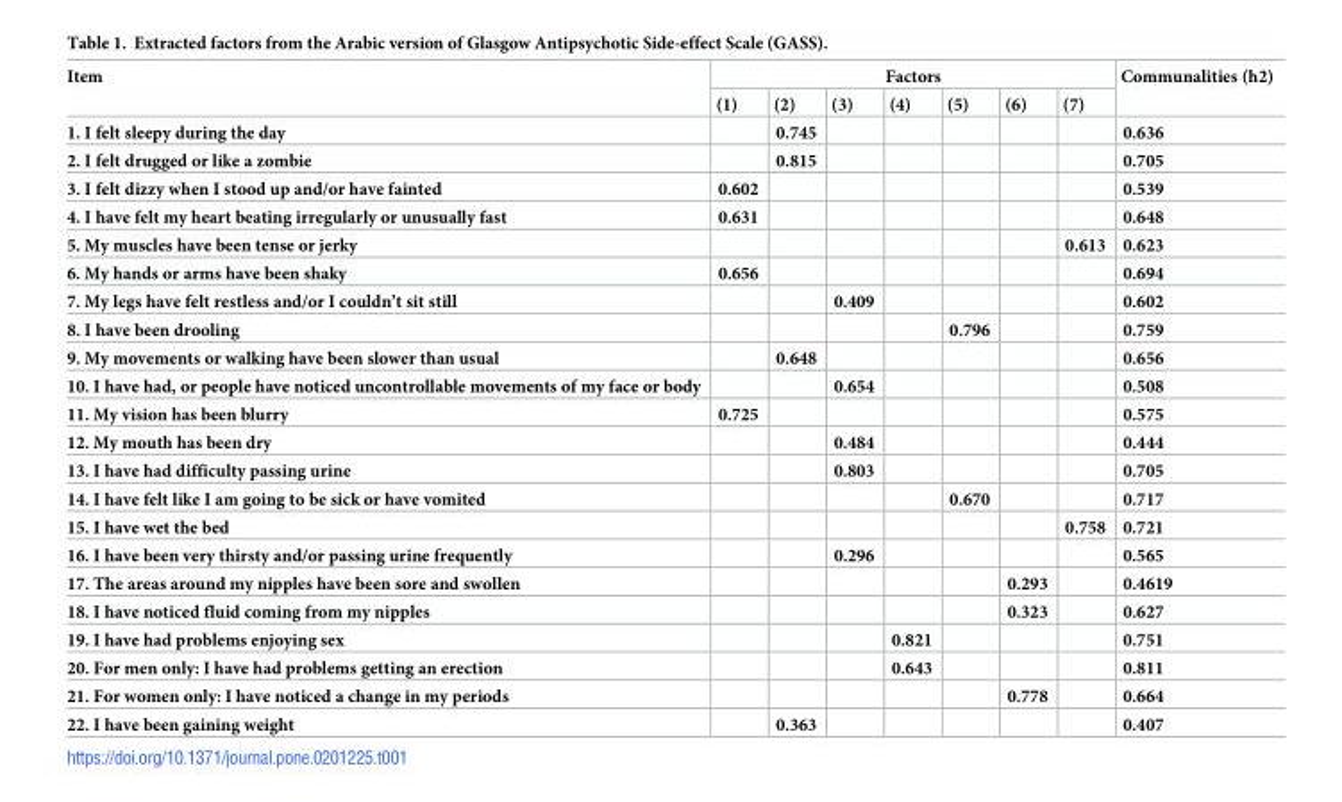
<table><thead><tr><td rowspan="2">Item</td><td colspan="7">Factors</td><td rowspan="2">Communalities (h2)</td></tr><tr><td>(1)</td><td>(2)</td><td>(3)</td><td>(4)</td><td>(5)</td><td>(6)</td><td>(7)</td></tr></thead><tbody><tr><td>1. I felt sleepy during the day</td><td></td><td>0.745</td><td></td><td></td><td></td><td></td><td></td><td>0.636</td></tr><tr><td>2. I felt drugged or like a zombie</td><td></td><td>0.815</td><td></td><td></td><td></td><td></td><td></td><td>0.705</td></tr><tr><td>3. I felt dizzy when I stood up and/or have fainted</td><td>0.602</td><td></td><td></td><td></td><td></td><td></td><td></td><td>0.539</td></tr><tr><td>4. I have felt my heart beating irregularly or unusually fast</td><td>0.631</td><td></td><td></td><td></td><td></td><td></td><td></td><td>0.648</td></tr><tr><td>5. My muscles have been tense or jerky</td><td></td><td></td><td></td><td></td><td></td><td></td><td>0.613</td><td>0.623</td></tr><tr><td>6. My hands or arms have been shaky</td><td>0.656</td><td></td><td></td><td></td><td></td><td></td><td></td><td>0.694</td></tr><tr><td>7. My legs have felt restless and/or I couldn’t sit still</td><td></td><td></td><td>0.409</td><td></td><td></td><td></td><td></td><td>0.602</td></tr><tr><td>8. I have been drooling</td><td></td><td></td><td></td><td></td><td>0.796</td><td></td><td></td><td>0.759</td></tr><tr><td>9. My movements or walking have been slower than usual</td><td></td><td>0.648</td><td></td><td></td><td></td><td></td><td></td><td>0.656</td></tr><tr><td>10. I have had, or people have noticed uncontrollable movements of my face or body</td><td></td><td></td><td>0.654</td><td></td><td></td><td></td><td></td><td>0.508</td></tr><tr><td>11. My vision has been blurry</td><td>0.725</td><td></td><td></td><td></td><td></td><td></td><td></td><td>0.575</td></tr><tr><td>12. My mouth has been dry</td><td></td><td></td><td>0.484</td><td></td><td></td><td></td><td></td><td>0.444</td></tr><tr><td>13. I have had difficulty passing urine</td><td></td><td></td><td>0.803</td><td></td><td></td><td></td><td></td><td>0.705</td></tr><tr><td>14. I have felt like I am going to be sick or have vomited</td><td></td><td></td><td></td><td></td><td>0.670</td><td></td><td></td><td>0.717</td></tr><tr><td>15. I have wet the bed</td><td></td><td></td><td></td><td></td><td></td><td></td><td>0.758</td><td>0.721</td></tr><tr><td>16. I have been very thirsty and/or passing urine frequently</td><td></td><td></td><td>0.296</td><td></td><td></td><td></td><td></td><td>0.565</td></tr><tr><td>17. The areas around my nipples have been sore and swollen</td><td></td><td></td><td></td><td></td><td></td><td>0.293</td><td></td><td>0.4619</td></tr><tr><td>18. I have noticed fluid coming from my nipples</td><td></td><td></td><td></td><td></td><td></td><td>0.323</td><td></td><td>0.627</td></tr><tr><td>19. I have had problems enjoying sex</td><td></td><td></td><td></td><td>0.821</td><td></td><td></td><td></td><td>0.751</td></tr><tr><td>20. For men only: I have had problems getting an erection</td><td></td><td></td><td></td><td>0.643</td><td></td><td></td><td></td><td>0.811</td></tr><tr><td>21. For women only: I have noticed a change in my periods</td><td></td><td></td><td></td><td></td><td></td><td>0.778</td><td></td><td>0.664</td></tr><tr><td>22. I have been gaining weight</td><td></td><td>0.363</td><td></td><td></td><td></td><td></td><td></td><td>0.407</td></tr></tbody></table>